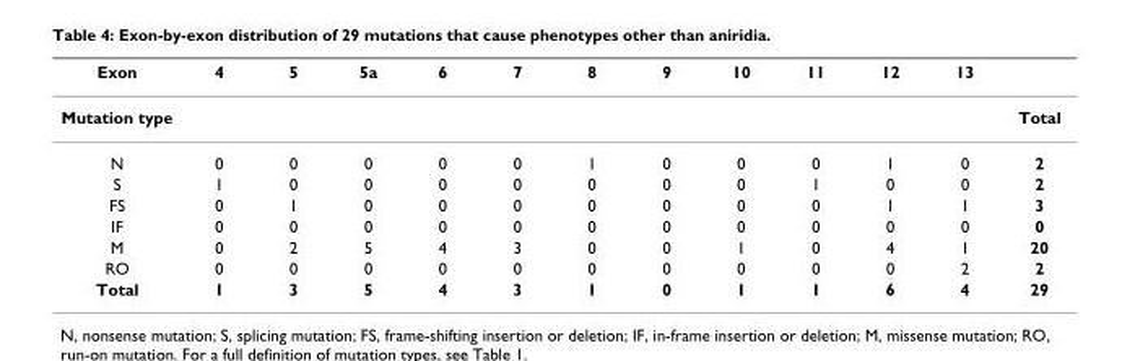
<table><thead><tr><td>Exon</td><td>4</td><td>5</td><td>5a</td><td>6</td><td>7</td><td>8</td><td>9</td><td>10</td><td>11</td><td>12</td><td>13</td><td></td></tr></thead><tbody><tr><td>Mutation type</td><td></td><td></td><td></td><td></td><td></td><td></td><td></td><td></td><td></td><td></td><td></td><td>Total</td></tr><tr><td>N</td><td>0</td><td>0</td><td>0</td><td>0</td><td>0</td><td>1</td><td>0</td><td>0</td><td>0</td><td>1</td><td>0</td><td>2</td></tr><tr><td>S</td><td>1</td><td>0</td><td>0</td><td>0</td><td>0</td><td>0</td><td>0</td><td>0</td><td>1</td><td>0</td><td>0</td><td>2</td></tr><tr><td>FS</td><td>0</td><td>1</td><td>0</td><td>0</td><td>0</td><td>0</td><td>0</td><td>0</td><td>0</td><td>1</td><td>1</td><td>3</td></tr><tr><td>IF</td><td>0</td><td>0</td><td>0</td><td>0</td><td>0</td><td>0</td><td>0</td><td>0</td><td>0</td><td>0</td><td>0</td><td>0</td></tr><tr><td>M</td><td>0</td><td>2</td><td>5</td><td>4</td><td>3</td><td>0</td><td>0</td><td>1</td><td>0</td><td>4</td><td>1</td><td>20</td></tr><tr><td>RO</td><td>0</td><td>0</td><td>0</td><td>0</td><td>0</td><td>0</td><td>0</td><td>0</td><td>0</td><td>0</td><td>2</td><td>2</td></tr><tr><td>Total</td><td>1</td><td>3</td><td>5</td><td>4</td><td>3</td><td>1</td><td>0</td><td>1</td><td>1</td><td>6</td><td>4</td><td>29</td></tr></tbody></table>